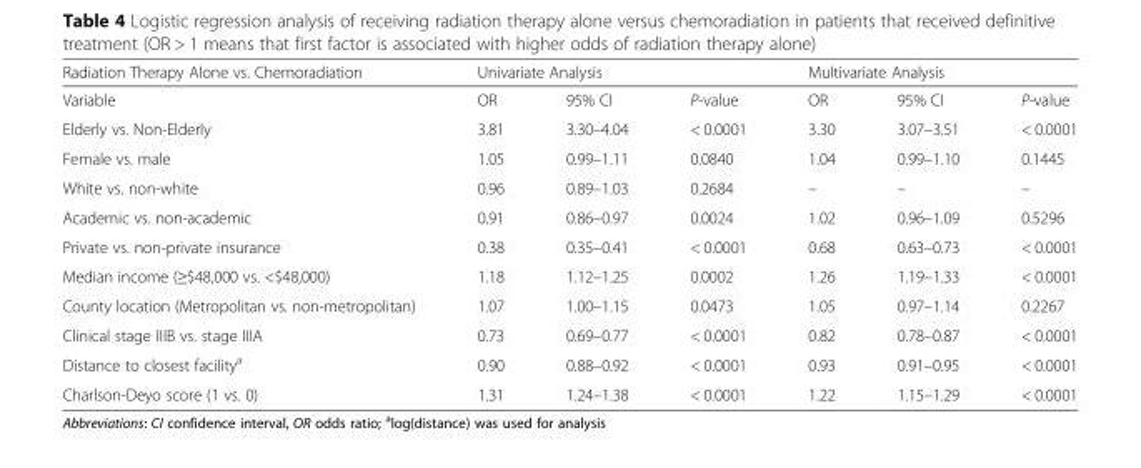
<table><thead><tr><td rowspan="2">Radiation Therapy Alone vs. Chemoradiation Variable</td><td colspan="3">Univariate Analysis</td><td colspan="3">Multivariate Analysis</td></tr><tr><td>OR</td><td>95% CI</td><td>P-value</td><td>OR</td><td>95% CI</td><td>P-value</td></tr></thead><tbody><tr><td>Elderly vs. Non-Elderly</td><td>3.81</td><td>3.30–4.04</td><td>&lt; 0.0001</td><td>3.30</td><td>3.07–3.51</td><td>&lt; 0.0001</td></tr><tr><td>Female vs. male</td><td>1.05</td><td>0.99–1.11</td><td>0.0840</td><td>1.04</td><td>0.99–1.10</td><td>0.1445</td></tr><tr><td>White vs. non-white</td><td>0.96</td><td>0.89–1.03</td><td>0.2684</td><td>–</td><td>–</td><td>–</td></tr><tr><td>Academic vs. non-academic</td><td>0.91</td><td>0.86–0.97</td><td>0.0024</td><td>1.02</td><td>0.96–1.09</td><td>0.5296</td></tr><tr><td>Private vs. non-private insurance</td><td>0.38</td><td>0.35–0.41</td><td>&lt; 0.0001</td><td>0.68</td><td>0.63–0.73</td><td>&lt; 0.0001</td></tr><tr><td>Median income (≥$48,000 vs. &lt;$48,000)</td><td>1.18</td><td>1.12–1.25</td><td>0.0002</td><td>1.26</td><td>1.19–1.33</td><td>&lt; 0.0001</td></tr><tr><td>County location (Metropolitan vs. non-metropolitan)</td><td>1.07</td><td>1.00–1.15</td><td>0.0473</td><td>1.05</td><td>0.97–1.14</td><td>0.2267</td></tr><tr><td>Clinical stage IIIB vs. stage IIIA</td><td>0.73</td><td>0.69–0.77</td><td>&lt; 0.0001</td><td>0.82</td><td>0.78–0.87</td><td>&lt; 0.0001</td></tr><tr><td>Distance to closest facility<sup>a</sup></td><td>0.90</td><td>0.88–0.92</td><td>&lt; 0.0001</td><td>0.93</td><td>0.91–0.95</td><td>&lt; 0.0001</td></tr><tr><td>Charlson-Deyo score (1 vs. 0)</td><td>1.31</td><td>1.24–1.38</td><td>&lt; 0.0001</td><td>1.22</td><td>1.15–1.29</td><td>&lt; 0.0001</td></tr></tbody></table>